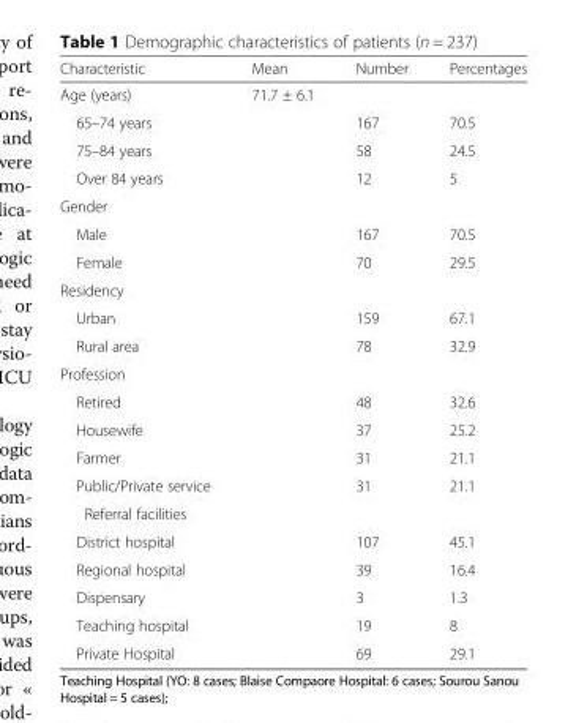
<table><thead><tr><td>Characteristic</td><td>Mean</td><td>Number</td><td>Percentages</td></tr></thead><tbody><tr><td>Age (years)</td><td>71.7 ± 6.1</td><td></td><td></td></tr><tr><td>65–74 years</td><td></td><td>167</td><td>70.5</td></tr><tr><td>75–84 years</td><td></td><td>58</td><td>24.5</td></tr><tr><td>Over 84 years</td><td></td><td>12</td><td>5</td></tr><tr><td colspan="4">Gender</td></tr><tr><td>Male</td><td></td><td>167</td><td>70.5</td></tr><tr><td>Female</td><td></td><td>70</td><td>29.5</td></tr><tr><td colspan="4">Residency</td></tr><tr><td>Urban</td><td></td><td>159</td><td>67.1</td></tr><tr><td>Rural area</td><td></td><td>78</td><td>32.9</td></tr><tr><td colspan="4">Profession</td></tr><tr><td>Retired</td><td></td><td>48</td><td>32.6</td></tr><tr><td>Housewife</td><td></td><td>37</td><td>25.2</td></tr><tr><td>Farmer</td><td></td><td>31</td><td>21.1</td></tr><tr><td>Public/Private service</td><td></td><td>31</td><td>21.1</td></tr><tr><td colspan="4">Referral facilities</td></tr><tr><td>District hospital</td><td></td><td>107</td><td>45.1</td></tr><tr><td>Regional hospital</td><td></td><td>39</td><td>16.4</td></tr><tr><td>Dispensary</td><td></td><td>3</td><td>1.3</td></tr><tr><td>Teaching hospital</td><td></td><td>19</td><td>8</td></tr><tr><td>Private Hospital</td><td></td><td>69</td><td>29.1</td></tr></tbody></table>